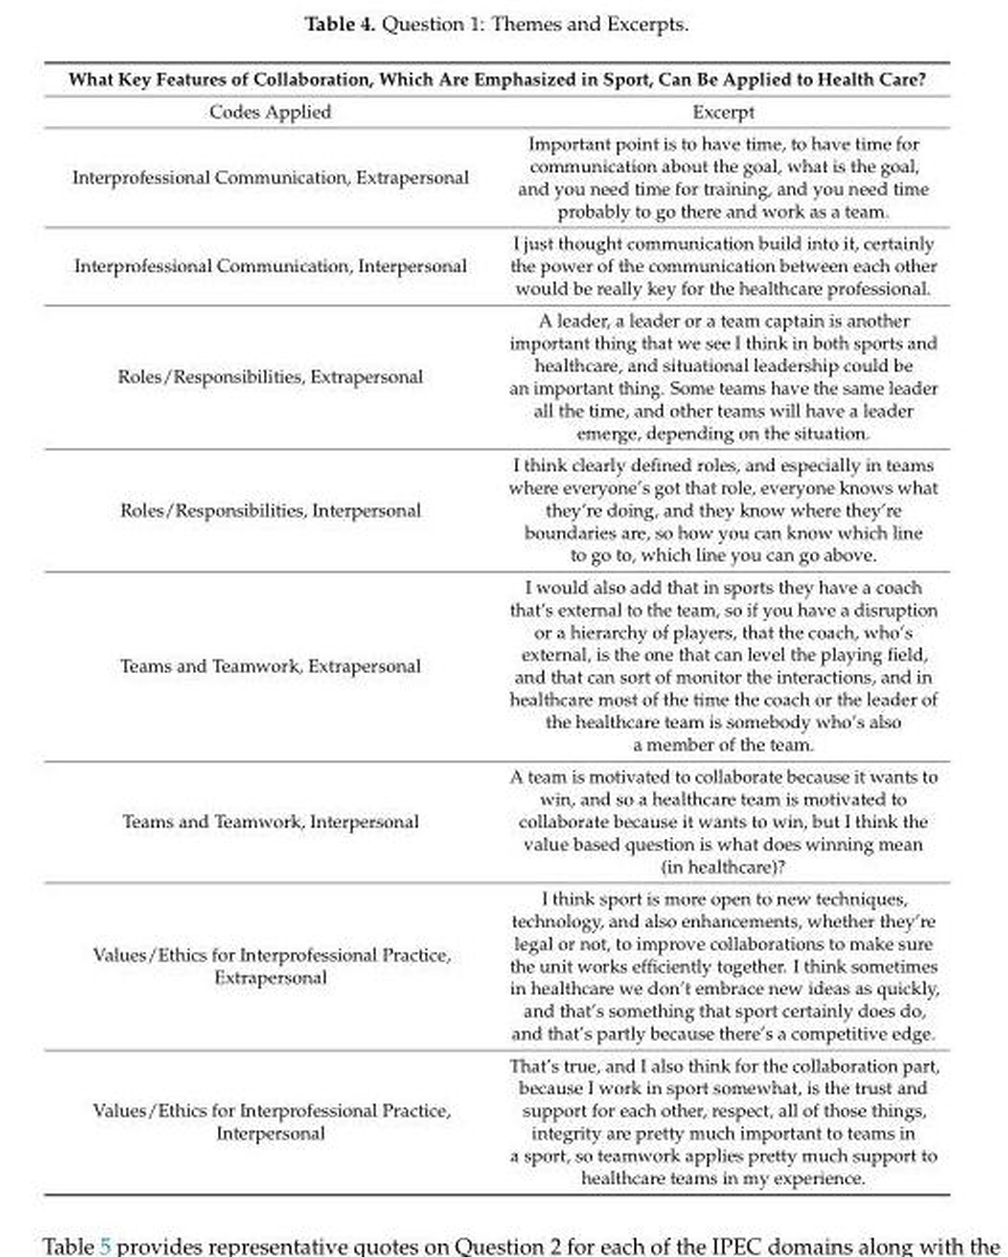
<table><thead><tr><td colspan="2">What Key Features of Collaboration, Which Are Emphasized in Sport, Can Be Applied to Health Care?</td></tr><tr><td>Codes Applied</td><td>Excerpt</td></tr></thead><tbody><tr><td>Interprofessional Communication, Extrapersonal</td><td>Important point is to have time, to have time for communication about the goal, what is the goal, and you need time for training, and you need time probably to go there and work as a team.</td></tr><tr><td>Interprofessional Communication, Interpersonal</td><td>I just thought communication build into it, certainly the power of the communication between each other would be really key for the healthcare professional.</td></tr><tr><td>Roles/Responsibilities, Extrapersonal</td><td>A leader, a leader or a team captain is another important thing that we see I think in both sports and healthcare, and situational leadership could be an important thing. Some teams have the same leader all the time, and other teams will have a leader emerge, depending on the situation.</td></tr><tr><td>Roles/Responsibilities, Interpersonal</td><td>I think clearly defined roles, and especially in teams where everyone’s got that role, everyone knows what they’re doing, and they know where they’re boundaries are, so how you can know which line to go to, which line you can go above.</td></tr><tr><td>Teams and Teamwork, Extrapersonal</td><td>I would also add that in sports they have a coach that’s external to the team, so if you have a disruption or a hierarchy of players, that the coach, who’s external, is the one that can level the playing field, and that can sort of monitor the interactions, and in healthcare most of the time the coach or the leader of the healthcare team is somebody who’s also a member of the team.</td></tr><tr><td>Teams and Teamwork, Interpersonal</td><td>A team is motivated to collaborate because it wants to win, and so a healthcare team is motivated to collaborate because it wants to win, but I think the value based question is what does winning mean (in healthcare)?</td></tr><tr><td>Values/Ethics for Interprofessional Practice, Extrapersonal</td><td>I think sport is more open to new techniques, technology, and also enhancements, whether they’re legal or not, to improve collaborations to make sure the unit works efficiently together. I think sometimes in healthcare we don’t embrace new ideas as quickly, and that’s something that sport certainly does do, and that’s partly because there’s a competitive edge.</td></tr><tr><td>Values/Ethics for Interprofessional Practice, Interpersonal</td><td>That’s true, and I also think for the collaboration part, because I work in sport somewhat, is the trust and support for each other, respect, all of those things, integrity are pretty much important to teams in a sport, so teamwork applies pretty much support to healthcare teams in my experience.</td></tr></tbody></table>